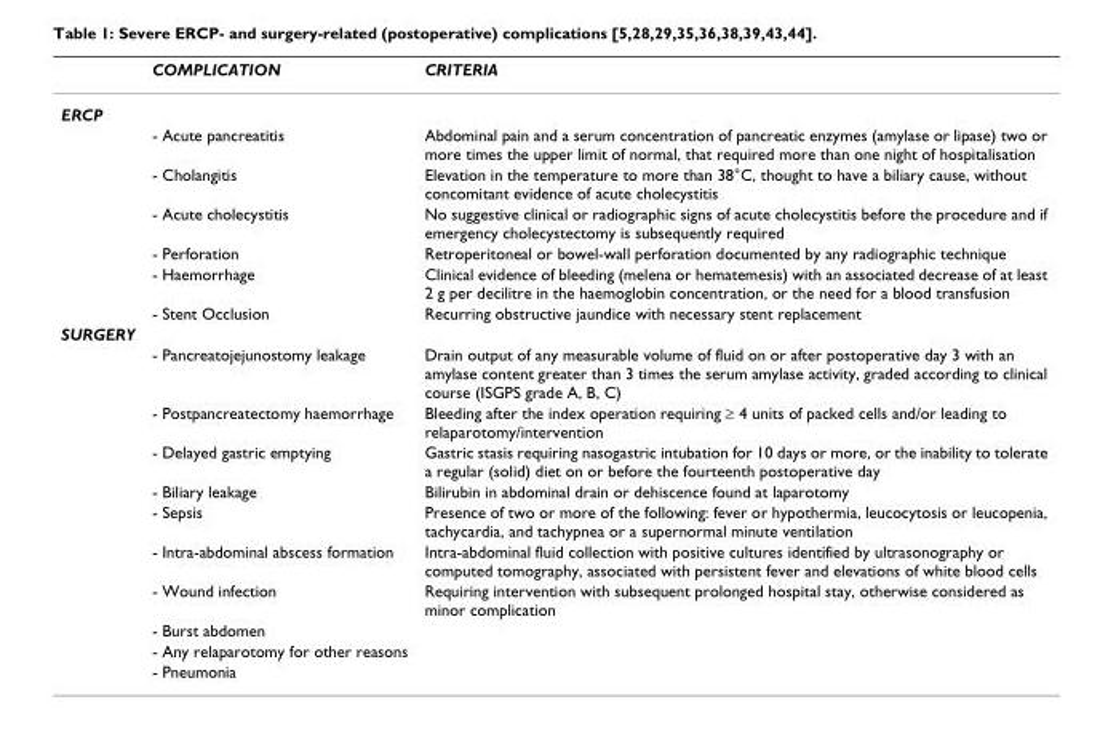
<table><thead><tr><td></td><td>COMPLICATION</td><td>CRITERIA</td></tr></thead><tbody><tr><td colspan="3">ERCP</td></tr><tr><td></td><td>- Acute pancreatitis</td><td>Abdominal pain and a serum concentration of pancreatic enzymes (amylase or lipase) two or more times the upper limit of normal, that required more than one night of hospitalisation</td></tr><tr><td></td><td>- Cholangitis</td><td>Elevation in the temperature to more than 38°C, thought to have a biliary cause, without concomitant evidence of acute cholecystitis</td></tr><tr><td></td><td>- Acute cholecystitis</td><td>No suggestive clinical or radiographic signs of acute cholecystitis before the procedure and if emergency cholecystectomy is subsequently required</td></tr><tr><td></td><td>- Perforation</td><td>Retroperitoneal or bowel-wall perforation documented by any radiographic technique</td></tr><tr><td></td><td>- Haemorrhage</td><td>Clinical evidence of bleeding (melena or hematemesis) with an associated decrease of at least 2 g per decilitre in the haemoglobin concentration, or the need for a blood transfusion</td></tr><tr><td></td><td>- Stent Occlusion</td><td>Recurring obstructive jaundice with necessary stent replacement</td></tr><tr><td colspan="3">SURGERY</td></tr><tr><td></td><td>- Pancreatojejunostomy leakage</td><td>Drain output of any measurable volume of fluid on or after postoperative day 3 with an amylase content greater than 3 times the serum amylase activity, graded according to clinical course (ISGPS grade A, B, C)</td></tr><tr><td></td><td>- Postpancreatectomy haemorrhage</td><td>Bleeding after the index operation requiring ≥ 4 units of packed cells and/or leading to relaparotomy/intervention</td></tr><tr><td></td><td>- Delayed gastric emptying</td><td>Gastric stasis requiring nasogastric intubation for 10 days or more, or the inability to tolerate a regular (solid) diet on or before the fourteenth postoperative day</td></tr><tr><td></td><td>- Biliary leakage</td><td>Bilirubin in abdominal drain or dehiscence found at laparotomy</td></tr><tr><td></td><td>- Sepsis</td><td>Presence of two or more of the following: fever or hypothermia, leucocytosis or leucopenia, tachycardia, and tachypnea or a supernormal minute ventilation</td></tr><tr><td></td><td>- Intra-abdominal abscess formation</td><td>Intra-abdominal fluid collection with positive cultures identified by ultrasonography or computed tomography, associated with persistent fever and elevations of white blood cells</td></tr><tr><td></td><td>- Wound infection</td><td>Requiring intervention with subsequent prolonged hospital stay, otherwise considered as minor complication</td></tr><tr><td></td><td>- Burst abdomen</td><td></td></tr><tr><td></td><td>- Any relaparotomy for other reasons</td><td></td></tr><tr><td></td><td>- Pneumonia</td><td></td></tr></tbody></table>